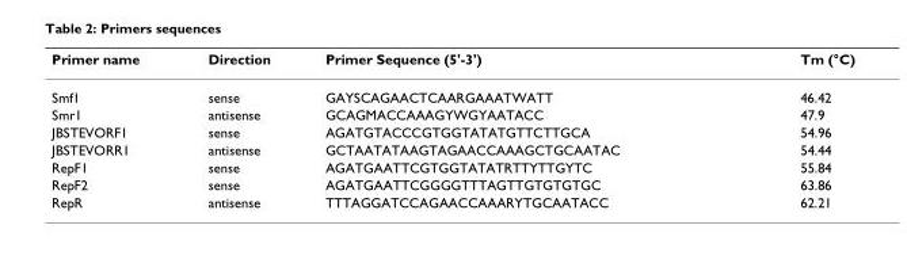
<table><thead><tr><td>Primer name</td><td>Direction</td><td>Primer Sequence (5&#x27;-3&#x27;)</td><td>Tm (°C)</td></tr></thead><tbody><tr><td>Smf1</td><td>sense</td><td>GAYSCAGAACTCAARGAAATWATT</td><td>46.42</td></tr><tr><td>Smr1</td><td>antisense</td><td>GCAGMACCAAAGYWGYAATACC</td><td>47.9</td></tr><tr><td>JBSTEVORF1</td><td>sense</td><td>AGATGTACCCGTGGTATATGTTCTTGCA</td><td>54.96</td></tr><tr><td>JBSTEVORR1</td><td>antisense</td><td>GCTAATATAAGTAGAACCAAAGCTGCAATAC</td><td>54.44</td></tr><tr><td>RepF1</td><td>sense</td><td>AGATGAATTCGTGGTATATRTTYTTGYTC</td><td>55.84</td></tr><tr><td>RepF2</td><td>sense</td><td>AGATGAATTCGGGGTTTAGTTGTGTGTGC</td><td>63.86</td></tr><tr><td>RepR</td><td>antisense</td><td>TTTAGGATCCAGAACCAAARYTGCAATACC</td><td>62.21</td></tr></tbody></table>